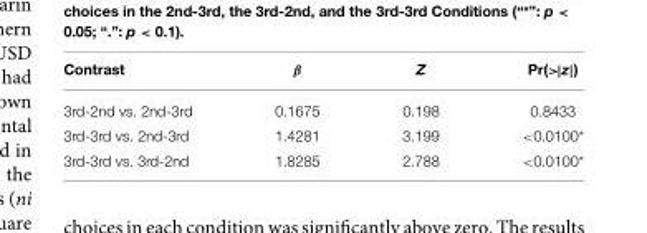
<table><thead><tr><td>Contrast</td><td>β</td><td>Z</td><td>Pr(&gt;|z|)</td></tr></thead><tbody><tr><td>3rd-2nd vs. 2nd-3rd</td><td>0.1675</td><td>0.198</td><td>0.8433</td></tr><tr><td>3rd-3rd vs. 2nd-3rd</td><td>1.4281</td><td>3.199</td><td>&lt;0.0100*</td></tr><tr><td>3rd-3rd vs. 3rd-2nd</td><td>1.8285</td><td>2.788</td><td>&lt;0.0100*</td></tr></tbody></table>